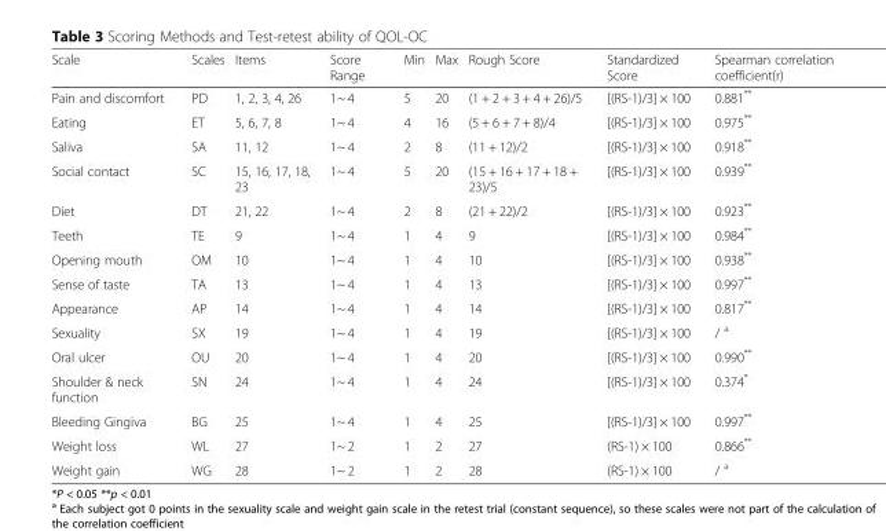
<table><thead><tr><td>Scale</td><td>Scales</td><td>Items</td><td>Score Range</td><td>Min</td><td>Max</td><td>Rough Score</td><td>Standardized Score</td><td>Spearman correlation coefficient(r)</td></tr></thead><tbody><tr><td>Pain and discomfort</td><td>PD</td><td>1, 2, 3, 4, 26</td><td>1~ 4</td><td>5</td><td>20</td><td>(1 + 2 + 3 + 4 + 26)/5</td><td>[(RS-1)/3] × 100</td><td>0.881**</td></tr><tr><td>Eating</td><td>ET</td><td>5, 6, 7, 8</td><td>1~ 4</td><td>4</td><td>16</td><td>(5 + 6 + 7 + 8)/4</td><td>[(RS-1)/3] × 100</td><td>0.975**</td></tr><tr><td>Saliva</td><td>SA</td><td>11, 12</td><td>1~ 4</td><td>2</td><td>8</td><td>(11 + 12)/2</td><td>[(RS-1)/3] × 100</td><td>0.918**</td></tr><tr><td>Social contact</td><td>SC</td><td>15, 16, 17, 18, 23</td><td>1~ 4</td><td>5</td><td>20</td><td>(15 + 16 + 17 + 18 + 23)/5</td><td>[(RS-1)/3] × 100</td><td>0.939**</td></tr><tr><td>Diet</td><td>DT</td><td>21, 22</td><td>1~ 4</td><td>2</td><td>8</td><td>(21 + 22)/2</td><td>[(RS-1)/3] × 100</td><td>0.923**</td></tr><tr><td>Teeth</td><td>TE</td><td>9</td><td>1~ 4</td><td>1</td><td>4</td><td>9</td><td>[(RS-1)/3] × 100</td><td>0.984**</td></tr><tr><td>Opening mouth</td><td>OM</td><td>10</td><td>1~ 4</td><td>1</td><td>4</td><td>10</td><td>[(RS-1)/3] × 100</td><td>0.938**</td></tr><tr><td>Sense of taste</td><td>TA</td><td>13</td><td>1~ 4</td><td>1</td><td>4</td><td>13</td><td>[(RS-1)/3] × 100</td><td>0.997**</td></tr><tr><td>Appearance</td><td>AP</td><td>14</td><td>1~ 4</td><td>1</td><td>4</td><td>14</td><td>[(RS-1)/3] × 100</td><td>0.817**</td></tr><tr><td>Sexuality</td><td>SX</td><td>19</td><td>1~ 4</td><td>1</td><td>4</td><td>19</td><td>[(RS-1)/3] × 100</td><td>/ <sup>a</sup></td></tr><tr><td>Oral ulcer</td><td>OU</td><td>20</td><td>1~ 4</td><td>1</td><td>4</td><td>20</td><td>[(RS-1)/3] × 100</td><td>0.990**</td></tr><tr><td>Shoulder &amp; neck function</td><td>SN</td><td>24</td><td>1~ 4</td><td>1</td><td>4</td><td>24</td><td>[(RS-1)/3] × 100</td><td>0.374*</td></tr><tr><td>Bleeding Gingiva</td><td>BG</td><td>25</td><td>1~ 4</td><td>1</td><td>4</td><td>25</td><td>[(RS-1)/3] × 100</td><td>0.997**</td></tr><tr><td>Weight loss</td><td>WL</td><td>27</td><td>1~ 2</td><td>1</td><td>2</td><td>27</td><td>(RS-1) × 100</td><td>0.866**</td></tr><tr><td>Weight gain</td><td>WG</td><td>28</td><td>1~ 2</td><td>1</td><td>2</td><td>28</td><td>(RS-1) × 100</td><td>/ <sup>a</sup></td></tr></tbody></table>